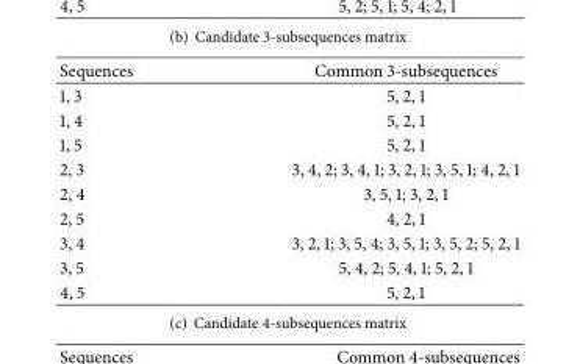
<table><tbody><tr><td>Sequences</td><td>Common 3-subsequences</td></tr><tr><td>1, 3</td><td>5, 2, 1</td></tr><tr><td>1, 4</td><td>5, 2, 1</td></tr><tr><td>1, 5</td><td>5, 2, 1</td></tr><tr><td>2, 3</td><td>3, 4, 2; 3, 4, 1; 3, 2, 1; 3, 5, 1; 4, 2, 1</td></tr><tr><td>2, 4</td><td>3, 5, 1; 3, 2, 1</td></tr><tr><td>2, 5</td><td>4, 2, 1</td></tr><tr><td>3, 4</td><td>3, 2, 1; 3, 5, 4; 3, 5, 1; 3, 5, 2; 5, 2, 1</td></tr><tr><td>3, 5</td><td>5, 4, 2; 5, 4, 1; 5, 2, 1</td></tr><tr><td>4, 5</td><td>5, 2, 1</td></tr></tbody></table>